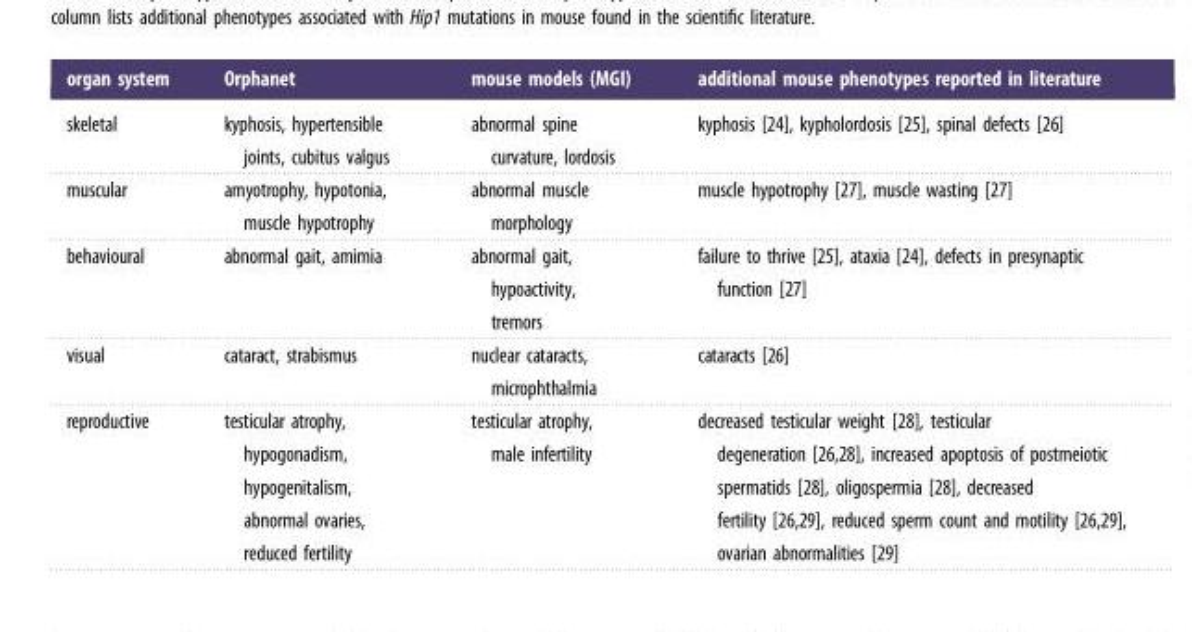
<table><thead><tr><td>organ system</td><td>Orphanet</td><td>mouse models (MGI)</td><td>additional mouse phenotypes reported in literature</td></tr></thead><tbody><tr><td>skeletal</td><td>kyphosis, hypertensible joints, cubitus valgus</td><td>abnormal spine curvature, lordosis</td><td>kyphosis [24], kypholordosis [25], spinal defects [26]</td></tr><tr><td>muscular</td><td>amyotrophy, hypotonia, muscle hypotrophy</td><td>abnormal muscle morphology</td><td>muscle hypotrophy [27], muscle wasting [27]</td></tr><tr><td>behavioural</td><td>abnormal gait, amimia</td><td>abnormal gait, hypoactivity, tremors</td><td>failure to thrive [25], ataxia [24], defects in presynaptic function [27]</td></tr><tr><td>visual</td><td>cataract, strabismus</td><td>nuclear cataracts, microphthalmia</td><td>cataracts [26]</td></tr><tr><td>reproductive</td><td>testicular atrophy, hypogonadism, hypogenitalism, abnormal ovaries, reduced fertility</td><td>testicular atrophy, male infertility</td><td>decreased testicular weight [28], testicular degeneration [26,28], increased apoptosis of postmeiotic spermatids [28], oligospermia [28], decreased fertility [26,29], reduced sperm count and motility [26,29], ovarian abnormalities [29]</td></tr></tbody></table>